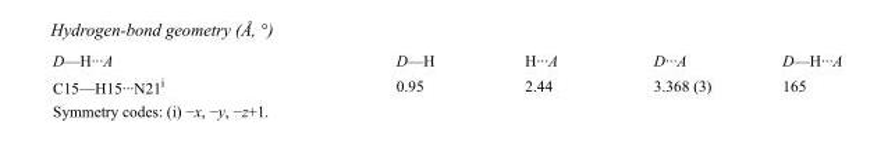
<table><tbody><tr><td>D—H···A</td><td>D—H</td><td>H···A</td><td>D···A</td><td>D—H···A</td></tr><tr><td>C15—H15···N21<sup>i</sup></td><td>0.95</td><td>2.44</td><td>3.368 (3)</td><td>165</td></tr></tbody></table>